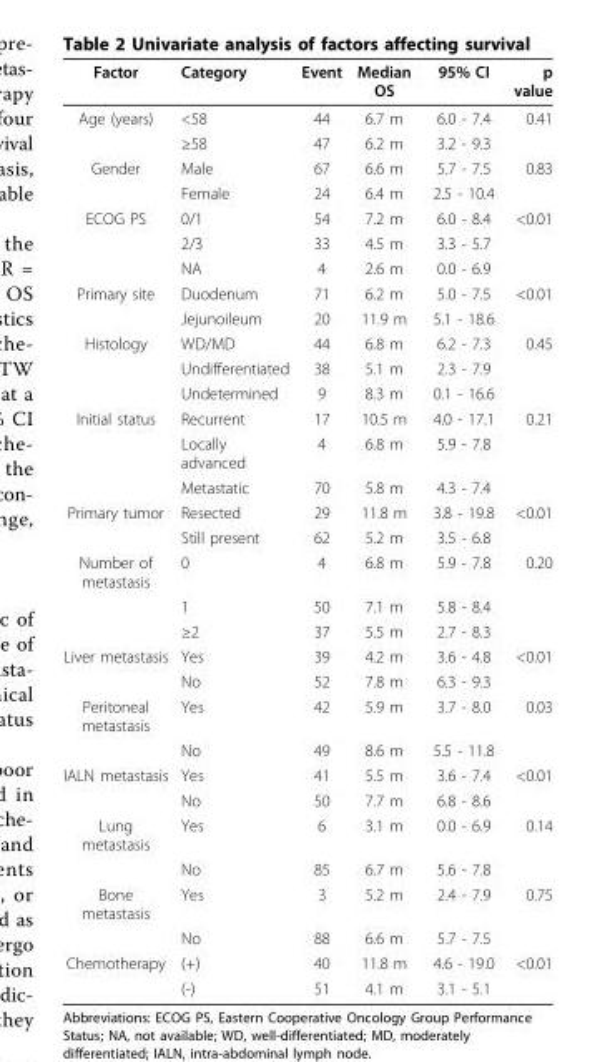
<table><thead><tr><td>Factor</td><td>Category</td><td>Event</td><td>Median OS</td><td>95% CI</td><td>p value</td></tr></thead><tbody><tr><td rowspan="2">Age (years)</td><td>&lt;58</td><td>44</td><td>6.7 m</td><td>6.0 - 7.4</td><td>0.41</td></tr><tr><td>≥58</td><td>47</td><td>6.2 m</td><td>3.2 - 9.3</td><td></td></tr><tr><td rowspan="2">Gender</td><td>Male</td><td>67</td><td>6.6 m</td><td>5.7 - 7.5</td><td>0.83</td></tr><tr><td>Female</td><td>24</td><td>6.4 m</td><td>2.5 - 10.4</td><td></td></tr><tr><td rowspan="3">ECOG PS</td><td>0/1</td><td>54</td><td>7.2 m</td><td>6.0 - 8.4</td><td>&lt;0.01</td></tr><tr><td>2/3</td><td>33</td><td>4.5 m</td><td>3.3 - 5.7</td><td></td></tr><tr><td>NA</td><td>4</td><td>2.6 m</td><td>0.0 - 6.9</td><td></td></tr><tr><td rowspan="2">Primary site</td><td>Duodenum</td><td>71</td><td>6.2 m</td><td>5.0 - 7.5</td><td>&lt;0.01</td></tr><tr><td>Jejunoileum</td><td>20</td><td>11.9 m</td><td>5.1 - 18.6</td><td></td></tr><tr><td rowspan="3">Histology</td><td>WD/MD</td><td>44</td><td>6.8 m</td><td>6.2 - 7.3</td><td>0.45</td></tr><tr><td>Undifferentiated</td><td>38</td><td>5.1 m</td><td>2.3 - 7.9</td><td></td></tr><tr><td>Undetermined</td><td>9</td><td>8.3 m</td><td>0.1 - 16.6</td><td></td></tr><tr><td rowspan="3">Initial status</td><td>Recurrent</td><td>17</td><td>10.5 m</td><td>4.0 - 17.1</td><td>0.21</td></tr><tr><td>Locally advanced</td><td>4</td><td>6.8 m</td><td>5.9 - 7.8</td><td></td></tr><tr><td>Metastatic</td><td>70</td><td>5.8 m</td><td>4.3 - 7.4</td><td></td></tr><tr><td rowspan="2">Primary tumor</td><td>Resected</td><td>29</td><td>11.8 m</td><td>3.8 - 19.8</td><td>&lt;0.01</td></tr><tr><td>Still present</td><td>62</td><td>5.2 m</td><td>3.5 - 6.8</td><td></td></tr><tr><td rowspan="3">Number of metastasis</td><td>0</td><td>4</td><td>6.8 m</td><td>5.9 - 7.8</td><td>0.20</td></tr><tr><td>1</td><td>50</td><td>7.1 m</td><td>5.8 - 8.4</td><td></td></tr><tr><td>≥2</td><td>37</td><td>5.5 m</td><td>2.7 - 8.3</td><td></td></tr><tr><td rowspan="2">Liver metastasis</td><td>Yes</td><td>39</td><td>4.2 m</td><td>3.6 - 4.8</td><td>&lt;0.01</td></tr><tr><td>No</td><td>52</td><td>7.8 m</td><td>6.3 - 9.3</td><td></td></tr><tr><td rowspan="2">Peritoneal metastasis</td><td>Yes</td><td>42</td><td>5.9 m</td><td>3.7 - 8.0</td><td>0.03</td></tr><tr><td>No</td><td>49</td><td>8.6 m</td><td>5.5 - 11.8</td><td></td></tr><tr><td rowspan="2">IALN metastasis</td><td>Yes</td><td>41</td><td>5.5 m</td><td>3.6 - 7.4</td><td>&lt;0.01</td></tr><tr><td>No</td><td>50</td><td>7.7 m</td><td>6.8 - 8.6</td><td></td></tr><tr><td rowspan="2">Lung metastasis</td><td>Yes</td><td>6</td><td>3.1 m</td><td>0.0 - 6.9</td><td>0.14</td></tr><tr><td>No</td><td>85</td><td>6.7 m</td><td>5.6 - 7.8</td><td></td></tr><tr><td rowspan="2">Bone metastasis</td><td>Yes</td><td>3</td><td>5.2 m</td><td>2.4 - 7.9</td><td>0.75</td></tr><tr><td>No</td><td>88</td><td>6.6 m</td><td>5.7 - 7.5</td><td></td></tr><tr><td rowspan="2">Chemotherapy</td><td>(+)</td><td>40</td><td>11.8 m</td><td>4.6 - 19.0</td><td>&lt;0.01</td></tr><tr><td>(-)</td><td>51</td><td>4.1 m</td><td>3.1 - 5.1</td><td></td></tr></tbody></table>